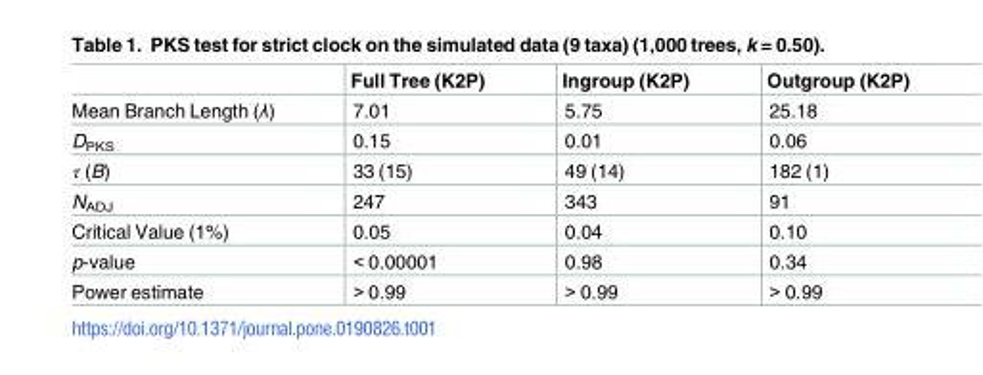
<table><thead><tr><td></td><td>Full Tree (K2P)</td><td>Ingroup (K2P)</td><td>Outgroup (K2P)</td></tr></thead><tbody><tr><td>Mean Branch Length (λ)</td><td>7.01</td><td>5.75</td><td>25.18</td></tr><tr><td>D<sub>PKS</sub></td><td>0.15</td><td>0.01</td><td>0.06</td></tr><tr><td>τ (B)</td><td>33 (15)</td><td>49 (14)</td><td>182 (1)</td></tr><tr><td>N<sub>ADJ</sub></td><td>247</td><td>343</td><td>91</td></tr><tr><td>Critical Value (1%)</td><td>0.05</td><td>0.04</td><td>0.10</td></tr><tr><td>p-value</td><td>&lt; 0.00001</td><td>0.98</td><td>0.34</td></tr><tr><td>Power estimate</td><td>&gt; 0.99</td><td>&gt; 0.99</td><td>&gt; 0.99</td></tr></tbody></table>